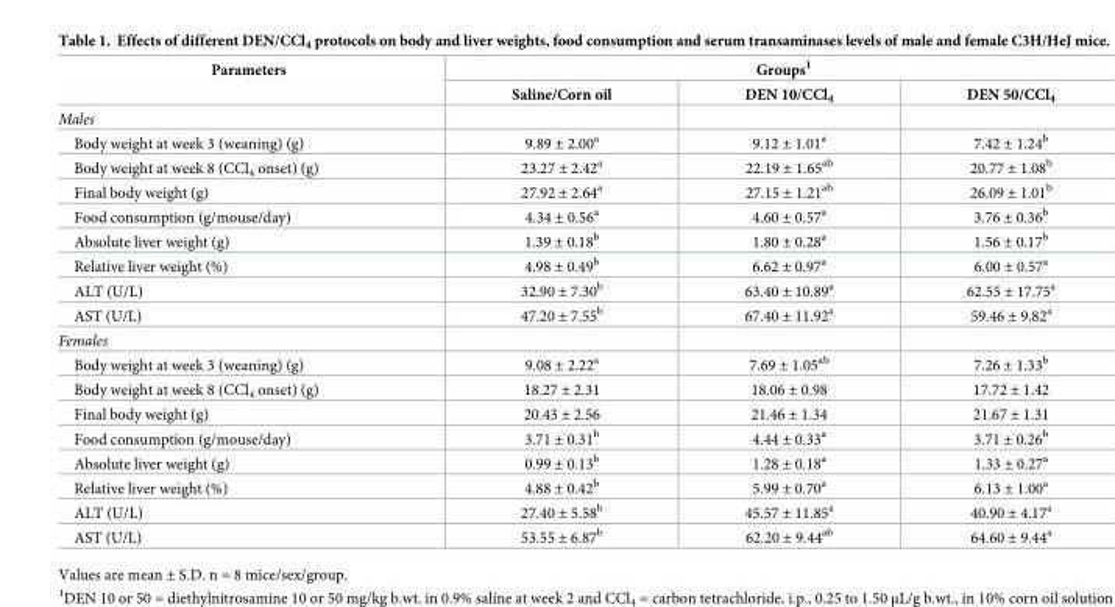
<table><thead><tr><td rowspan="2">Parameters</td><td colspan="3">Groups<sup>1</sup></td></tr><tr><td>Saline/Corn oil</td><td>DEN 10/CCl<sub>4</sub></td><td>DEN 50/CCl<sub>4</sub></td></tr></thead><tbody><tr><td colspan="4">Males</td></tr><tr><td>Body weight at week 3 (weaning) (g)</td><td>9.89 ± 2.00<sup>a</sup></td><td>9.12 ± 1.01<sup>a</sup></td><td>7.42 ± 1.24<sup>b</sup></td></tr><tr><td>Body weight at week 8 (CCl<sub>4</sub> onset) (g)</td><td>23.27 ± 2.42<sup>a</sup></td><td>22.19 ± 1.65<sup>ab</sup></td><td>20.77 ± 1.08<sup>b</sup></td></tr><tr><td>Final body weight (g)</td><td>27.92 ± 2.64<sup>a</sup></td><td>27.15 ± 1.21<sup>ab</sup></td><td>26.09 ± 1.01<sup>b</sup></td></tr><tr><td>Food consumption (g/mouse/day)</td><td>4.34 ± 0.56<sup>a</sup></td><td>4.60 ± 0.57<sup>a</sup></td><td>3.76 ± 0.36<sup>b</sup></td></tr><tr><td>Absolute liver weight (g)</td><td>1.39 ± 0.18<sup>b</sup></td><td>1.80 ± 0.28<sup>a</sup></td><td>1.56 ± 0.17<sup>b</sup></td></tr><tr><td>Relative liver weight (%)</td><td>4.98 ± 0.49<sup>b</sup></td><td>6.62 ± 0.97<sup>a</sup></td><td>6.00 ± 0.57<sup>a</sup></td></tr><tr><td>ALT (U/L)</td><td>32.90 ± 7.30<sup>b</sup></td><td>63.40 ± 10.89<sup>a</sup></td><td>62.55 ± 17.75<sup>a</sup></td></tr><tr><td>AST (U/L)</td><td>47.20 ± 7.55<sup>b</sup></td><td>67.40 ± 11.92<sup>a</sup></td><td>59.46 ± 9.82<sup>a</sup></td></tr><tr><td colspan="4">Females</td></tr><tr><td>Body weight at week 3 (weaning) (g)</td><td>9.08 ± 2.22<sup>a</sup></td><td>7.69 ± 1.05<sup>ab</sup></td><td>7.26 ± 1.33<sup>b</sup></td></tr><tr><td>Body weight at week 8 (CCl<sub>4</sub> onset) (g)</td><td>18.27 ± 2.31</td><td>18.06 ± 0.98</td><td>17.72 ± 1.42</td></tr><tr><td>Final body weight (g)</td><td>20.43 ± 2.56</td><td>21.46 ± 1.34</td><td>21.67 ± 1.31</td></tr><tr><td>Food consumption (g/mouse/day)</td><td>3.71 ± 0.31<sup>b</sup></td><td>4.44 ± 0.33<sup>a</sup></td><td>3.71 ± 0.26<sup>b</sup></td></tr><tr><td>Absolute liver weight (g)</td><td>0.99 ± 0.13<sup>b</sup></td><td>1.28 ± 0.18<sup>a</sup></td><td>1.33 ± 0.27<sup>a</sup></td></tr><tr><td>Relative liver weight (%)</td><td>4.88 ± 0.42<sup>b</sup></td><td>5.99 ± 0.70<sup>a</sup></td><td>6.13 ± 1.00<sup>a</sup></td></tr><tr><td>ALT (U/L)</td><td>27.40 ± 5.58<sup>b</sup></td><td>45.57 ± 11.85<sup>a</sup></td><td>40.90 ± 4.17<sup>a</sup></td></tr><tr><td>AST (U/L)</td><td>53.55 ± 6.87<sup>b</sup></td><td>62.20 ± 9.44<sup>ab</sup></td><td>64.60 ± 9.44<sup>a</sup></td></tr></tbody></table>